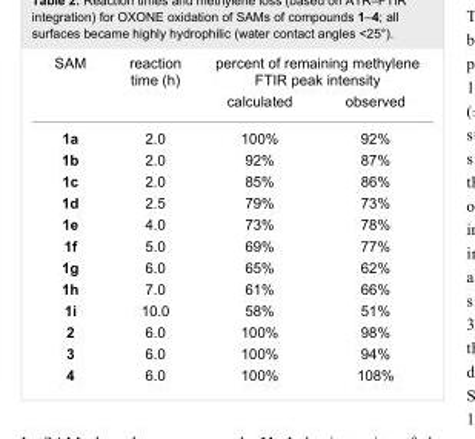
<table><tbody><tr><td rowspan="2">SAM</td><td rowspan="2">reaction time (h)</td><td colspan="2">percent of remaining methylene FTIR peak intensity</td></tr><tr><td>calculated</td><td>observed</td></tr><tr><td>1a</td><td>2.0</td><td>100%</td><td>92%</td></tr><tr><td>1b</td><td>2.0</td><td>92%</td><td>87%</td></tr><tr><td>1c</td><td>2.0</td><td>85%</td><td>86%</td></tr><tr><td>1d</td><td>2.5</td><td>79%</td><td>73%</td></tr><tr><td>1e</td><td>4.0</td><td>73%</td><td>78%</td></tr><tr><td>1f</td><td>5.0</td><td>69%</td><td>77%</td></tr><tr><td>1g</td><td>6.0</td><td>65%</td><td>62%</td></tr><tr><td>1h</td><td>7.0</td><td>61%</td><td>66%</td></tr><tr><td>1i</td><td>10.0</td><td>58%</td><td>51%</td></tr><tr><td>2</td><td>6.0</td><td>100%</td><td>98%</td></tr><tr><td>3</td><td>6.0</td><td>100%</td><td>94%</td></tr><tr><td>4</td><td>6.0</td><td>100%</td><td>108%</td></tr></tbody></table>